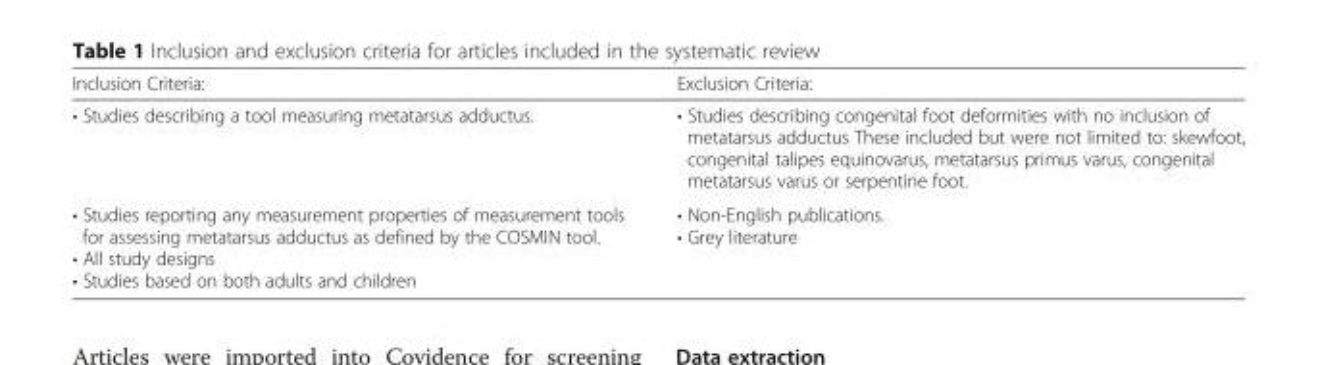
<table><thead><tr><td>Inclusion Criteria:</td><td>Exclusion Criteria:</td></tr></thead><tbody><tr><td>• Studies describing a tool measuring metatarsus adductus.</td><td>• Studies describing congenital foot deformities with no inclusion of metatarsus adductus These included but were not limited to: skewfoot, congenital talipes equinovarus, metatarsus primus varus, congenital metatarsus varus or serpentine foot.</td></tr><tr><td>• Studies reporting any measurement properties of measurement tools for assessing metatarsus adductus as defined by the COSMIN tool. • All study designs • Studies based on both adults and children</td><td>• Non-English publications. • Grey literature</td></tr></tbody></table>